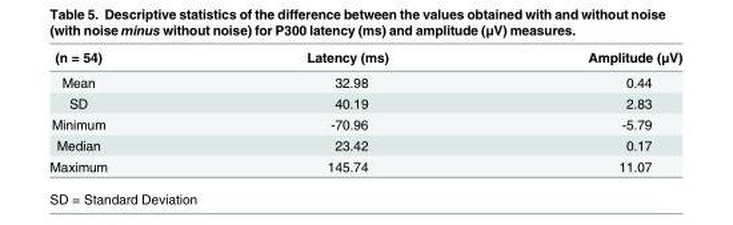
<table><thead><tr><td>(n = 54)</td><td>Latency (ms)</td><td>Amplitude (μV)</td></tr></thead><tbody><tr><td>Mean</td><td>32.98</td><td>0.44</td></tr><tr><td>SD</td><td>40.19</td><td>2.83</td></tr><tr><td>Minimum</td><td>-70.96</td><td>-5.79</td></tr><tr><td>Median</td><td>23.42</td><td>0.17</td></tr><tr><td>Maximum</td><td>145.74</td><td>11.07</td></tr></tbody></table>